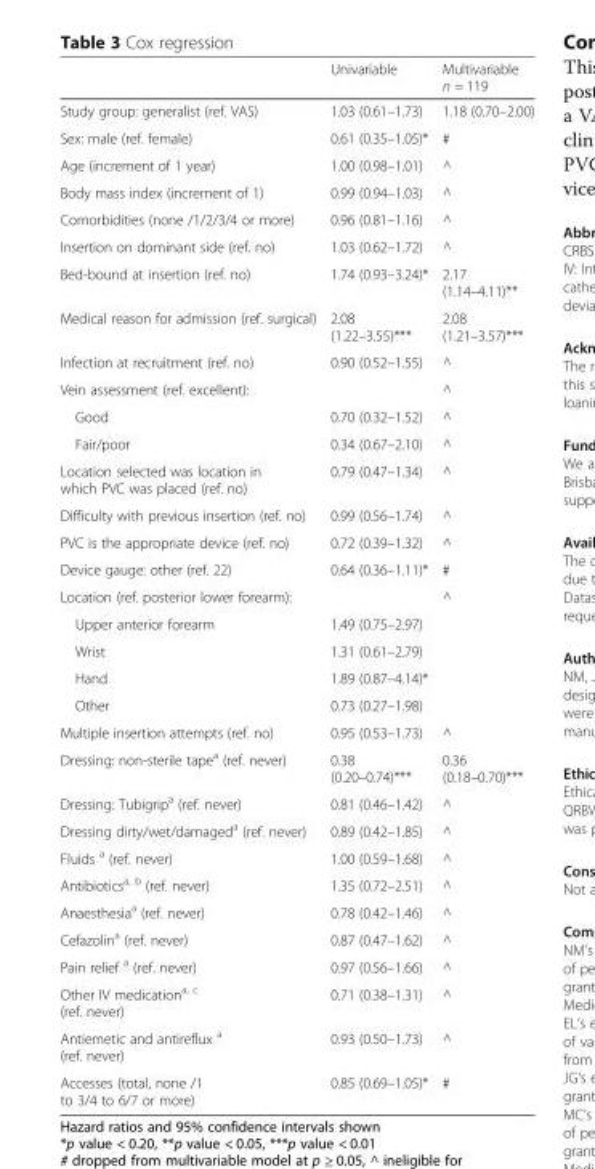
<table><thead><tr><td></td><td>Univariable</td><td>Multivariable n = 119</td></tr></thead><tbody><tr><td>Study group: generalist (ref. VAS)</td><td>1.03 (0.61–1.73)</td><td>1.18 (0.70–2.00)</td></tr><tr><td>Sex: male (ref. female)</td><td>0.61 (0.35–1.05)*</td><td>#</td></tr><tr><td>Age (increment of 1 year)</td><td>1.00 (0.98–1.01)</td><td>^</td></tr><tr><td>Body mass index (increment of 1)</td><td>0.99 (0.94–1.03)</td><td>^</td></tr><tr><td>Comorbidities (none /1/2/3/4 or more)</td><td>0.96 (0.81–1.16)</td><td>^</td></tr><tr><td>Insertion on dominant side (ref. no)</td><td>1.03 (0.62–1.72)</td><td>^</td></tr><tr><td>Bed-bound at insertion (ref. no)</td><td>1.74 (0.93–3.24)*</td><td>2.17 (1.14–4.11)**</td></tr><tr><td>Medical reason for admission (ref. surgical)</td><td>2.08 (1.22–3.55)***</td><td>2.08 (1.21–3.57)***</td></tr><tr><td>Infection at recruitment (ref. no)</td><td>0.90 (0.52–1.55)</td><td>^</td></tr><tr><td>Vein assessment (ref. excellent):</td><td></td><td>^</td></tr><tr><td>Good</td><td>0.70 (0.32–1.52)</td><td>^</td></tr><tr><td>Fair/poor</td><td>0.34 (0.67–2.10)</td><td>^</td></tr><tr><td>Location selected was location in which PVC was placed (ref. no)</td><td>0.79 (0.47–1.34)</td><td>^</td></tr><tr><td>Difficulty with previous insertion (ref. no)</td><td>0.99 (0.56–1.74)</td><td>^</td></tr><tr><td>PVC is the appropriate device (ref. no)</td><td>0.72 (0.39–1.32)</td><td>^</td></tr><tr><td>Device gauge: other (ref. 22)</td><td>0.64 (0.36–1.11)*</td><td>#</td></tr><tr><td>Location (ref. posterior lower forearm):</td><td></td><td>^</td></tr><tr><td>Upper anterior forearm</td><td>1.49 (0.75–2.97)</td><td></td></tr><tr><td>Wrist</td><td>1.31 (0.61–2.79)</td><td></td></tr><tr><td>Hand</td><td>1.89 (0.87–4.14)*</td><td></td></tr><tr><td>Other</td><td>0.73 (0.27–1.98)</td><td></td></tr><tr><td>Multiple insertion attempts (ref. no)</td><td>0.95 (0.53–1.73)</td><td>^</td></tr><tr><td>Dressing: non-sterile tape<sup>a</sup> (ref. never)</td><td>0.38 (0.20–0.74)***</td><td>0.36 (0.18–0.70)***</td></tr><tr><td>Dressing: Tubigrip<sup>a</sup> (ref. never)</td><td>0.81 (0.46–1.42)</td><td>^</td></tr><tr><td>Dressing dirty/wet/damaged<sup>a</sup> (ref. never)</td><td>0.89 (0.42–1.85)</td><td>^</td></tr><tr><td>Fluids <sup>a</sup> (ref. never)</td><td>1.00 (0.59–1.68)</td><td>^</td></tr><tr><td>Antibiotics<sup>a, b</sup> (ref. never)</td><td>1.35 (0.72–2.51)</td><td>^</td></tr><tr><td>Anaesthesia<sup>a</sup> (ref. never)</td><td>0.78 (0.42–1.46)</td><td>^</td></tr><tr><td>Cefazolin<sup>a</sup> (ref. never)</td><td>0.87 (0.47–1.62)</td><td>^</td></tr><tr><td>Pain relief <sup>a</sup> (ref. never)</td><td>0.97 (0.56–1.66)</td><td>^</td></tr><tr><td>Other IV medication<sup>a, c</sup> (ref. never)</td><td>0.71 (0.38–1.31)</td><td>^</td></tr><tr><td>Antiemetic and antireflux <sup>a</sup> (ref. never)</td><td>0.93 (0.50–1.73)</td><td>^</td></tr><tr><td>Accesses (total, none /1 to 3/4 to 6/7 or more)</td><td>0.85 (0.69–1.05)*</td><td>#</td></tr></tbody></table>